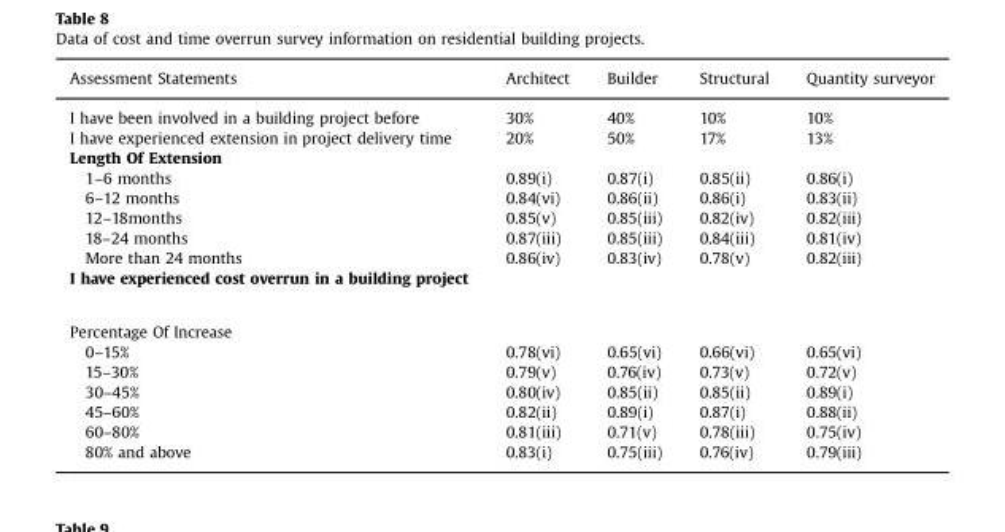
<table><thead><tr><td>Assessment Statements</td><td>Architect</td><td>Builder</td><td>Structural</td><td>Quantity surveyor</td></tr></thead><tbody><tr><td>I have been involved in a building project before</td><td>30%</td><td>40%</td><td>10%</td><td>10%</td></tr><tr><td>I have experienced extension in project delivery time</td><td>20%</td><td>50%</td><td>17%</td><td>13%</td></tr><tr><td colspan="5">Length Of Extension</td></tr><tr><td>1–6 months</td><td>0.89(i)</td><td>0.87(i)</td><td>0.85(ii)</td><td>0.86(i)</td></tr><tr><td>6–12 months</td><td>0.84(vi)</td><td>0.86(ii)</td><td>0.86(i)</td><td>0.83(ii)</td></tr><tr><td>12–18months</td><td>0.85(v)</td><td>0.85(iii)</td><td>0.82(iv)</td><td>0.82(iii)</td></tr><tr><td>18–24 months</td><td>0.87(iii)</td><td>0.85(iii)</td><td>0.84(iii)</td><td>0.81(iv)</td></tr><tr><td>More than 24 months</td><td>0.86(iv)</td><td>0.83(iv)</td><td>0.78(v)</td><td>0.82(iii)</td></tr><tr><td colspan="5">I have experienced cost overrun in a building project</td></tr><tr><td colspan="5">Percentage Of Increase</td></tr><tr><td>0–15%</td><td>0.78(vi)</td><td>0.65(vi)</td><td>0.66(vi)</td><td>0.65(vi)</td></tr><tr><td>15–30%</td><td>0.79(v)</td><td>0.76(iv)</td><td>0.73(v)</td><td>0.72(v)</td></tr><tr><td>30–45%</td><td>0.80(iv)</td><td>0.85(ii)</td><td>0.85(ii)</td><td>0.89(i)</td></tr><tr><td>45–60%</td><td>0.82(ii)</td><td>0.89(i)</td><td>0.87(i)</td><td>0.88(ii)</td></tr><tr><td>60–80%</td><td>0.81(iii)</td><td>0.71(v)</td><td>0.78(iii)</td><td>0.75(iv)</td></tr><tr><td>80% and above</td><td>0.83(i)</td><td>0.75(iii)</td><td>0.76(iv)</td><td>0.79(iii)</td></tr></tbody></table>